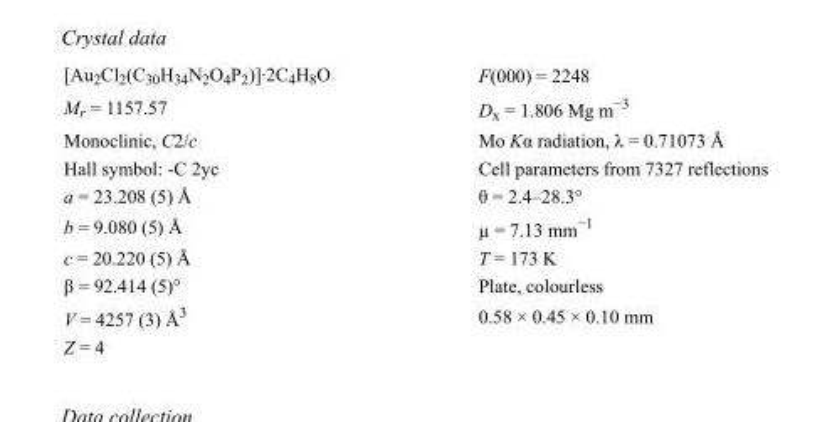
<table><tbody><tr><td>[Au<sub>2</sub>Cl<sub>2</sub>(C<sub>30</sub>H<sub>34</sub>N<sub>2</sub>O<sub>4</sub>P<sub>2</sub>)]·2C<sub>4</sub>H<sub>8</sub>O</td><td>F(000) = 2248</td></tr><tr><td>M<sub>r</sub> = 1157.57</td><td>D<sub>x</sub> = 1.806 Mg m<sup>−3</sup></td></tr><tr><td>Monoclinic, C2/c</td><td>Mo Kα radiation, λ = 0.71073 Å</td></tr><tr><td>Hall symbol: -C 2yc</td><td>Cell parameters from 7327 reflections</td></tr><tr><td>a = 23.208 (5) Å</td><td>θ = 2.4–28.3°</td></tr><tr><td>b = 9.080 (5) Å</td><td>µ = 7.13 mm<sup>−1</sup></td></tr><tr><td>c = 20.220 (5) Å</td><td>T = 173 K</td></tr><tr><td>β = 92.414 (5)°</td><td>Plate, colourless</td></tr><tr><td>V = 4257 (3) Å<sup>3</sup></td><td>0.58 × 0.45 × 0.10 mm</td></tr><tr><td>Z = 4</td><td></td></tr></tbody></table>